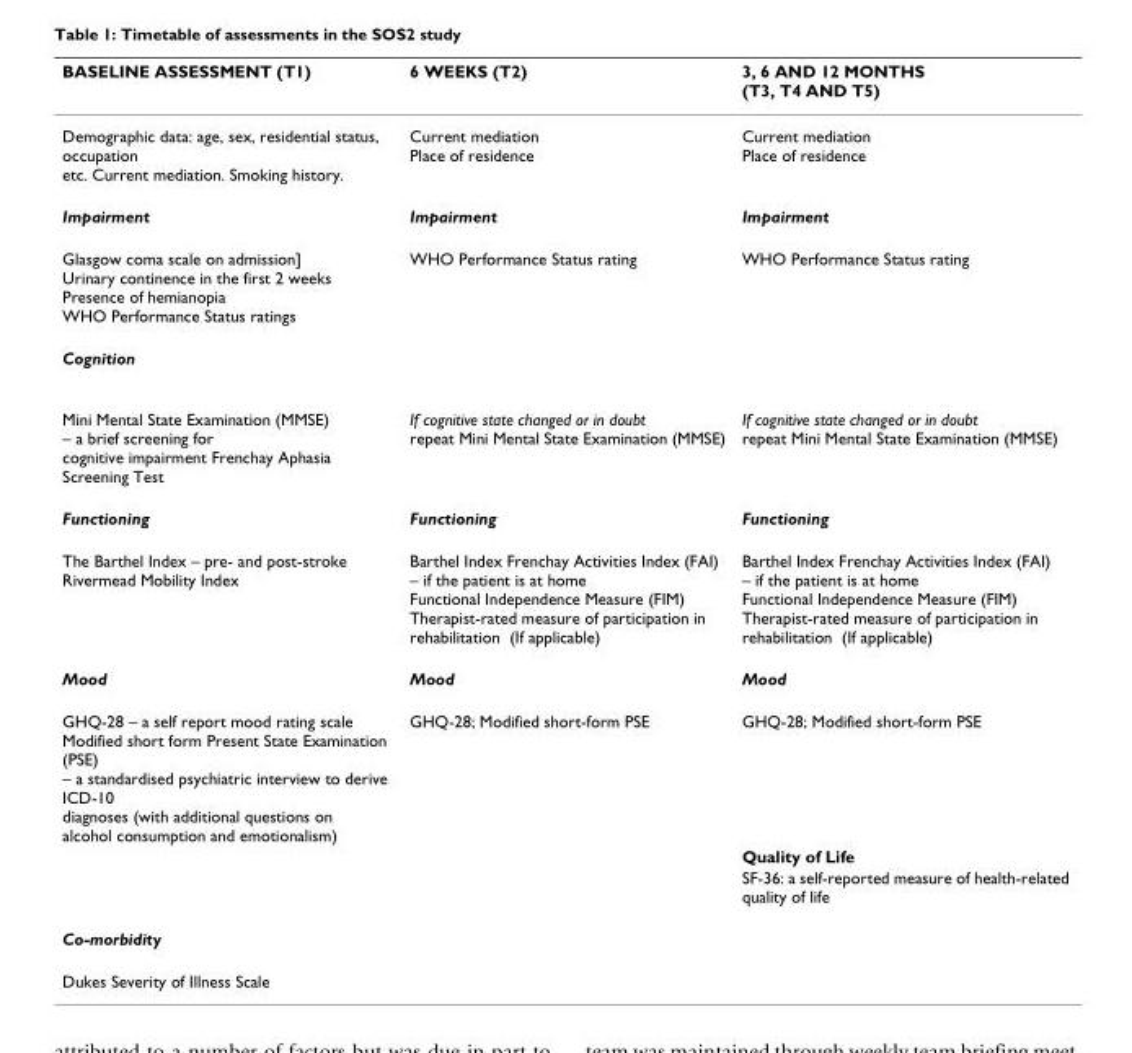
<table><thead><tr><td>BASELINE ASSESSMENT (T1)</td><td>6 WEEKS (T2)</td><td>3, 6 AND 12 MONTHS (T3, T4 AND T5)</td></tr></thead><tbody><tr><td>Demographic data: age, sex, residential status, occupation etc. Current mediation. Smoking history.</td><td>Current mediation Place of residence</td><td>Current mediation Place of residence</td></tr><tr><td>Impairment</td><td>Impairment</td><td>Impairment</td></tr><tr><td>Glasgow coma scale on admission] Urinary continence in the first 2 weeks Presence of hemianopia WHO Performance Status ratings</td><td>WHO Performance Status rating</td><td>WHO Performance Status rating</td></tr><tr><td colspan="3">Cognition</td></tr><tr><td>Mini Mental State Examination (MMSE) – a brief screening for cognitive impairment Frenchay Aphasia Screening Test</td><td>If cognitive state changed or in doubt repeat Mini Mental State Examination (MMSE)</td><td>If cognitive state changed or in doubt repeat Mini Mental State Examination (MMSE)</td></tr><tr><td>Functioning</td><td>Functioning</td><td>Functioning</td></tr><tr><td>The Barthel Index – pre- and post-stroke Rivermead Mobility Index</td><td>Barthel Index Frenchay Activities Index (FAI) – if the patient is at home Functional Independence Measure (FIM) Therapist-rated measure of participation in rehabilitation (If applicable)</td><td>Barthel Index Frenchay Activities Index (FAI) – if the patient is at home Functional Independence Measure (FIM) Therapist-rated measure of participation in rehabilitation (If applicable)</td></tr><tr><td>Mood</td><td>Mood</td><td>Mood</td></tr><tr><td rowspan="3">GHQ-28 – a self report mood rating scale Modified short form Present State Examination (PSE) – a standardised psychiatric interview to derive ICD-10 diagnoses (with additional questions on alcohol consumption and emotionalism)</td><td>GHQ-28; Modified short-form PSE</td><td>GHQ-28; Modified short-form PSE</td></tr><tr><td></td><td>Quality of Life</td></tr><tr><td></td><td>SF-36: a self-reported measure of health-related quality of life</td></tr><tr><td colspan="3">Co-morbidity</td></tr><tr><td>Dukes Severity of Illness Scale</td><td></td><td></td></tr></tbody></table>